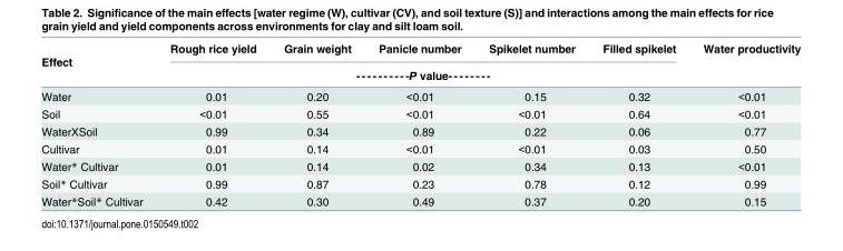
<table><thead><tr><td rowspan="2">Effect</td><td>Rough rice yield</td><td>Grain weight</td><td>Panicle number</td><td>Spikelet number</td><td>Filled spikelet</td><td rowspan="2">Water productivity</td></tr><tr><td colspan="5">- - - - - - - - - -P value- - - - - - - -</td></tr></thead><tbody><tr><td>Water</td><td>0.01</td><td>0.20</td><td>&lt;0.01</td><td>0.15</td><td>0.32</td><td>&lt;0.01</td></tr><tr><td>Soil</td><td>&lt;0.01</td><td>0.55</td><td>&lt;0.01</td><td>&lt;0.01</td><td>0.64</td><td>&lt;0.01</td></tr><tr><td>WaterXSoil</td><td>0.99</td><td>0.34</td><td>0.89</td><td>0.22</td><td>0.06</td><td>0.77</td></tr><tr><td>Cultivar</td><td>0.01</td><td>0.14</td><td>&lt;0.01</td><td>&lt;0.01</td><td>0.03</td><td>0.50</td></tr><tr><td>Water* Cultivar</td><td>0.01</td><td>0.14</td><td>0.02</td><td>0.34</td><td>0.13</td><td>&lt;0.01</td></tr><tr><td>Soil* Cultivar</td><td>0.99</td><td>0.87</td><td>0.23</td><td>0.78</td><td>0.12</td><td>0.99</td></tr><tr><td>Water*Soil* Cultivar</td><td>0.42</td><td>0.30</td><td>0.49</td><td>0.37</td><td>0.20</td><td>0.15</td></tr></tbody></table>